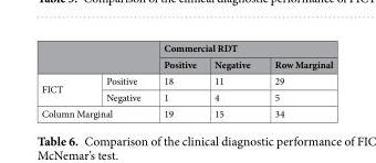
<table><thead><tr><td rowspan="2"></td><td rowspan="2"></td><td colspan="3">Commercial RDT</td></tr><tr><td>Positive</td><td>Negative</td><td>Row Marginal</td></tr></thead><tbody><tr><td rowspan="2">FICT</td><td>Positive</td><td>18</td><td>11</td><td>29</td></tr><tr><td>Negative</td><td>1</td><td>4</td><td>5</td></tr><tr><td colspan="2">Column Marginal</td><td>19</td><td>15</td><td>34</td></tr></tbody></table>